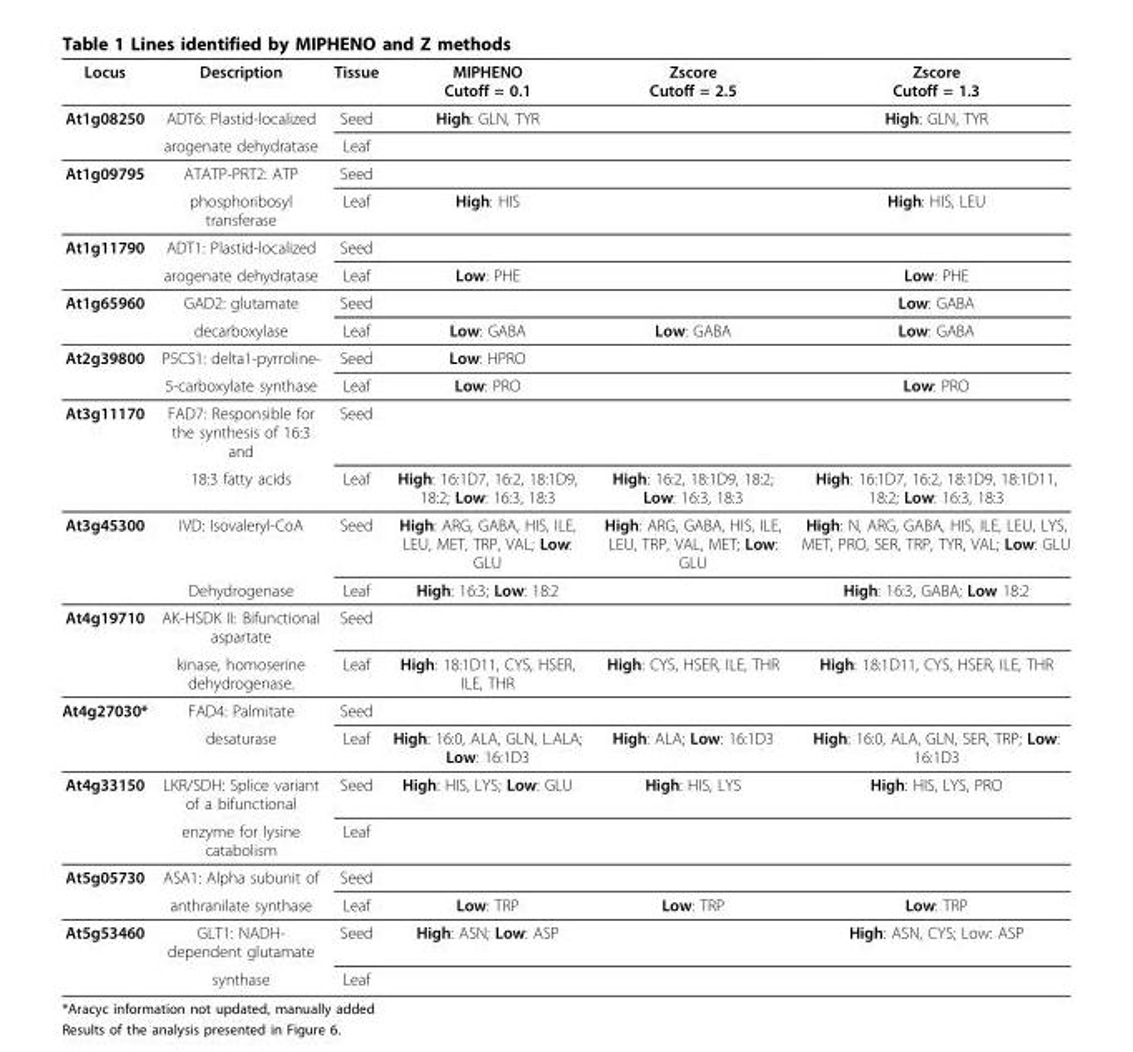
<table><thead><tr><td>Locus</td><td>Description</td><td>Tissue</td><td>MIPHENO Cutoff = 0.1</td><td>Zscore Cutoff = 2.5</td><td>Zscore Cutoff = 1.3</td></tr></thead><tbody><tr><td rowspan="2">At1g08250</td><td>ADT6: Plastid-localized</td><td>Seed</td><td>High: GLN, TYR</td><td></td><td>High: GLN, TYR</td></tr><tr><td>arogenate dehydratase</td><td>Leaf</td><td></td><td></td><td></td></tr><tr><td rowspan="2">At1g09795</td><td>ATATP-PRT2: ATP</td><td>Seed</td><td></td><td></td><td></td></tr><tr><td>phosphoribosyl transferase</td><td>Leaf</td><td>High: HIS</td><td></td><td>High: HIS, LEU</td></tr><tr><td rowspan="2">At1g11790</td><td>ADT1: Plastid-localized</td><td>Seed</td><td></td><td></td><td></td></tr><tr><td>arogenate dehydratase</td><td>Leaf</td><td>Low: PHE</td><td></td><td>Low: PHE</td></tr><tr><td rowspan="2">At1g65960</td><td>GAD2: glutamate</td><td>Seed</td><td></td><td></td><td>Low: GABA</td></tr><tr><td>decarboxylase</td><td>Leaf</td><td>Low: GABA</td><td>Low: GABA</td><td>Low: GABA</td></tr><tr><td rowspan="2">At2g39800</td><td>P5CS1: delta1-pyrroline-</td><td>Seed</td><td>Low: HPRO</td><td></td><td></td></tr><tr><td>5-carboxylate synthase</td><td>Leaf</td><td>Low: PRO</td><td></td><td>Low: PRO</td></tr><tr><td rowspan="2">At3g11170</td><td>FAD7: Responsible for the synthesis of 16:3 and</td><td>Seed</td><td></td><td></td><td></td></tr><tr><td>18:3 fatty acids</td><td>Leaf</td><td>High: 16:1D7, 16:2, 18:1D9, 18:2; Low: 16:3, 18:3</td><td>High: 16:2, 18:1D9, 18:2; Low: 16:3, 18:3</td><td>High: 16:1D7, 16:2, 18:1D9, 18:1D11, 18:2; Low: 16:3, 18:3</td></tr><tr><td rowspan="2">At3g45300</td><td>IVD: Isovaleryl-CoA</td><td>Seed</td><td>High: ARG, GABA, HIS, ILE, LEU, MET, TRP, VAL; Low: GLU</td><td>High: ARG, GABA, HIS, ILE, LEU, TRP, VAL, MET; Low: GLU</td><td>High: N, ARG, GABA, HIS, ILE, LEU, LYS, MET, PRO, SER, TRP, TYR, VAL; Low: GLU</td></tr><tr><td>Dehydrogenase</td><td>Leaf</td><td>High: 16:3; Low: 18:2</td><td></td><td>High: 16:3, GABA; Low 18:2</td></tr><tr><td rowspan="2">At4g19710</td><td>AK-HSDK II: Bifunctional aspartate</td><td>Seed</td><td></td><td></td><td></td></tr><tr><td>kinase, homoserine dehydrogenase.</td><td>Leaf</td><td>High: 18:1D11, CYS, HSER, ILE, THR</td><td>High: CYS, HSER, ILE, THR</td><td>High: 18:1D11, CYS, HSER, ILE, THR</td></tr><tr><td rowspan="2">At4g27030*</td><td>FAD4: Palmitate</td><td>Seed</td><td></td><td></td><td></td></tr><tr><td>desaturase</td><td>Leaf</td><td>High: 16:0, ALA, GLN, L.ALA; Low: 16:1D3</td><td>High: ALA; Low: 16:1D3</td><td>High: 16:0, ALA, GLN, SER, TRP; Low: 16:1D3</td></tr><tr><td rowspan="2">At4g33150</td><td>LKR/SDH: Splice variant of a bifunctional</td><td>Seed</td><td>High: HIS, LYS; Low: GLU</td><td>High: HIS, LYS</td><td>High: HIS, LYS, PRO</td></tr><tr><td>enzyme for lysine catabolism</td><td>Leaf</td><td></td><td></td><td></td></tr><tr><td rowspan="2">At5g05730</td><td>ASA1: Alpha subunit of</td><td>Seed</td><td></td><td></td><td></td></tr><tr><td>anthranilate synthase</td><td>Leaf</td><td>Low: TRP</td><td>Low: TRP</td><td>Low: TRP</td></tr><tr><td rowspan="2">At5g53460</td><td>GLT1: NADH- dependent glutamate</td><td>Seed</td><td>High: ASN; Low: ASP</td><td></td><td>High: ASN, CYS; Low: ASP</td></tr><tr><td>synthase</td><td>Leaf</td><td></td><td></td><td></td></tr></tbody></table>